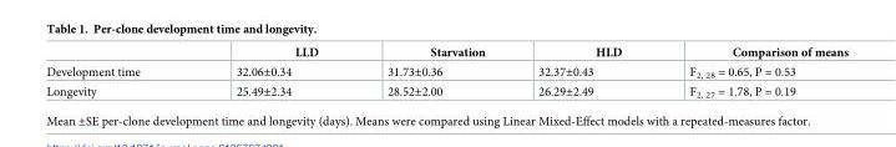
<table><thead><tr><td></td><td>LLD</td><td>Starvation</td><td>HLD</td><td>Comparison of means</td></tr></thead><tbody><tr><td>Development time</td><td>32.06±0.34</td><td>31.73±0.36</td><td>32.37±0.43</td><td>F<sub>2, 28</sub> = 0.65, P = 0.53</td></tr><tr><td>Longevity</td><td>25.49±2.34</td><td>28.52±2.00</td><td>26.29±2.49</td><td>F<sub>2, 27</sub> = 1.78, P = 0.19</td></tr></tbody></table>